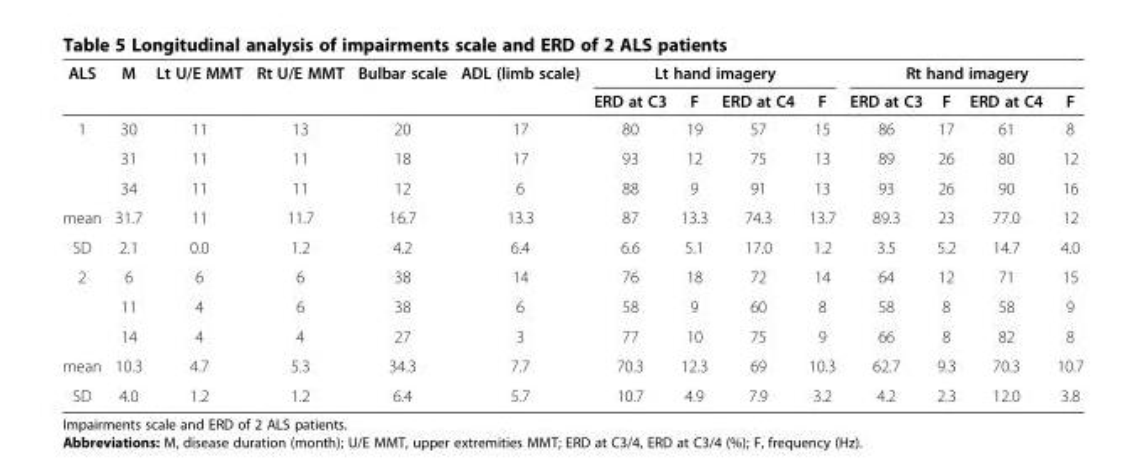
<table><thead><tr><td rowspan="2">ALS</td><td rowspan="2">M</td><td rowspan="2">Lt U/E MMT</td><td rowspan="2">Rt U/E MMT</td><td rowspan="2">Bulbar scale</td><td rowspan="2">ADL (limb scale)</td><td colspan="4">Lt hand imagery</td><td colspan="4">Rt hand imagery</td></tr><tr><td>ERD at C3</td><td>F</td><td>ERD at C4</td><td>F</td><td>ERD at C3</td><td>F</td><td>ERD at C4</td><td>F</td></tr></thead><tbody><tr><td rowspan="3">1</td><td>30</td><td>11</td><td>13</td><td>20</td><td>17</td><td>80</td><td>19</td><td>57</td><td>15</td><td>86</td><td>17</td><td>61</td><td>8</td></tr><tr><td>31</td><td>11</td><td>11</td><td>18</td><td>17</td><td>93</td><td>12</td><td>75</td><td>13</td><td>89</td><td>26</td><td>80</td><td>12</td></tr><tr><td>34</td><td>11</td><td>11</td><td>12</td><td>6</td><td>88</td><td>9</td><td>91</td><td>13</td><td>93</td><td>26</td><td>90</td><td>16</td></tr><tr><td>mean</td><td>31.7</td><td>11</td><td>11.7</td><td>16.7</td><td>13.3</td><td>87</td><td>13.3</td><td>74.3</td><td>13.7</td><td>89.3</td><td>23</td><td>77.0</td><td>12</td></tr><tr><td>SD</td><td>2.1</td><td>0.0</td><td>1.2</td><td>4.2</td><td>6.4</td><td>6.6</td><td>5.1</td><td>17.0</td><td>1.2</td><td>3.5</td><td>5.2</td><td>14.7</td><td>4.0</td></tr><tr><td rowspan="3">2</td><td>6</td><td>6</td><td>6</td><td>38</td><td>14</td><td>76</td><td>18</td><td>72</td><td>14</td><td>64</td><td>12</td><td>71</td><td>15</td></tr><tr><td>11</td><td>4</td><td>6</td><td>38</td><td>6</td><td>58</td><td>9</td><td>60</td><td>8</td><td>58</td><td>8</td><td>58</td><td>9</td></tr><tr><td>14</td><td>4</td><td>4</td><td>27</td><td>3</td><td>77</td><td>10</td><td>75</td><td>9</td><td>66</td><td>8</td><td>82</td><td>8</td></tr><tr><td>mean</td><td>10.3</td><td>4.7</td><td>5.3</td><td>34.3</td><td>7.7</td><td>70.3</td><td>12.3</td><td>69</td><td>10.3</td><td>62.7</td><td>9.3</td><td>70.3</td><td>10.7</td></tr><tr><td>SD</td><td>4.0</td><td>1.2</td><td>1.2</td><td>6.4</td><td>5.7</td><td>10.7</td><td>4.9</td><td>7.9</td><td>3.2</td><td>4.2</td><td>2.3</td><td>12.0</td><td>3.8</td></tr></tbody></table>